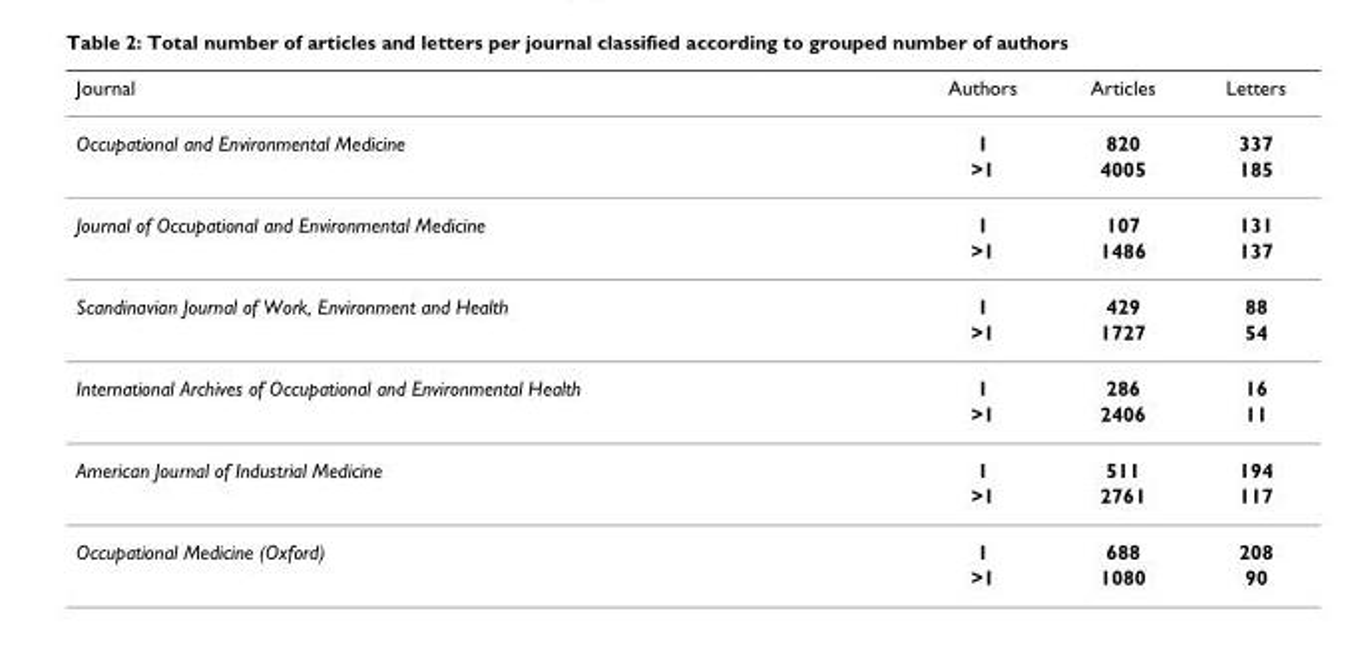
<table><thead><tr><td>Journal</td><td>Authors</td><td>Articles</td><td>Letters</td></tr></thead><tbody><tr><td rowspan="2">Occupational and Environmental Medicine</td><td>1</td><td>820</td><td>337</td></tr><tr><td>&gt;1</td><td>4005</td><td>185</td></tr><tr><td rowspan="2">Journal of Occupational and Environmental Medicine</td><td>1</td><td>107</td><td>131</td></tr><tr><td>&gt;1</td><td>1486</td><td>137</td></tr><tr><td rowspan="2">Scandinavian Journal of Work, Environment and Health</td><td>1</td><td>429</td><td>88</td></tr><tr><td>&gt;1</td><td>1727</td><td>54</td></tr><tr><td rowspan="2">International Archives of Occupational and Environmental Health</td><td>1</td><td>286</td><td>16</td></tr><tr><td>&gt;1</td><td>2406</td><td>11</td></tr><tr><td rowspan="2">American Journal of Industrial Medicine</td><td>1</td><td>511</td><td>194</td></tr><tr><td>&gt;1</td><td>2761</td><td>117</td></tr><tr><td rowspan="2">Occupational Medicine (Oxford)</td><td>1</td><td>688</td><td>208</td></tr><tr><td>&gt;1</td><td>1080</td><td>90</td></tr></tbody></table>